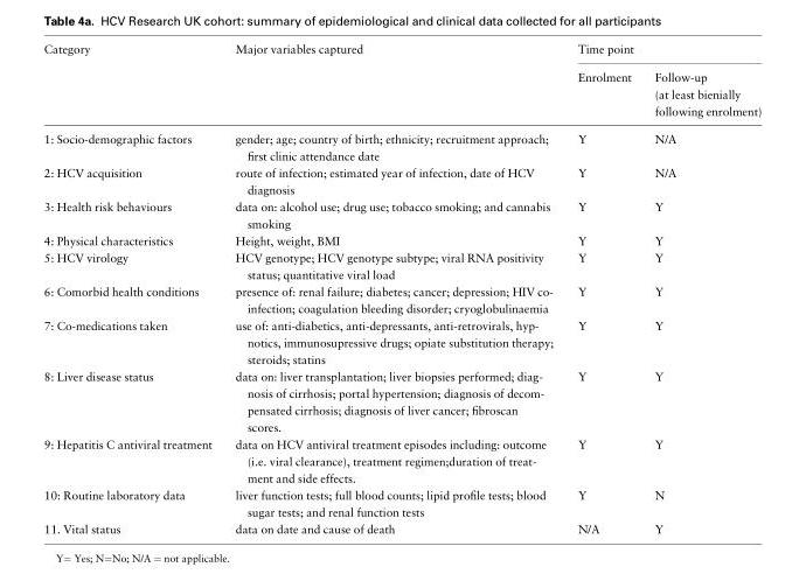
<table><thead><tr><td rowspan="2">Category</td><td rowspan="2">Major variables captured</td><td colspan="2">Time point</td></tr><tr><td>Enrolment</td><td>Follow-up (at least bienially following enrolment)</td></tr></thead><tbody><tr><td>1: Socio-demographic factors</td><td>gender; age; country of birth; ethnicity; recruitment approach; first clinic attendance date</td><td>Y</td><td>N/A</td></tr><tr><td>2: HCV acquisition</td><td>route of infection; estimated year of infection, date of HCV diagnosis</td><td>Y</td><td>N/A</td></tr><tr><td>3: Health risk behaviours</td><td>data on: alcohol use; drug use; tobacco smoking; and cannabis smoking</td><td>Y</td><td>Y</td></tr><tr><td>4: Physical characteristics</td><td>Height, weight, BMI</td><td>Y</td><td>Y</td></tr><tr><td>5: HCV virology</td><td>HCV genotype; HCV genotype subtype; viral RNA positivity status; quantitative viral load</td><td>Y</td><td>Y</td></tr><tr><td>6: Comorbid health conditions</td><td>presence of: renal failure; diabetes; cancer; depression; HIV co- infection; coagulation bleeding disorder; cryoglobulinaemia</td><td>Y</td><td>Y</td></tr><tr><td>7: Co-medications taken</td><td>use of: anti-diabetics, anti-depressants, anti-retrovirals, hyp- notics, immunosupressive drugs; opiate substitution therapy; steroids; statins</td><td>Y</td><td>Y</td></tr><tr><td>8: Liver disease status</td><td>data on: liver transplantation; liver biopsies performed; diag- nosis of cirrhosis; portal hypertension; diagnosis of decom- pensated cirrhosis; diagnosis of liver cancer; fibroscan scores.</td><td>Y</td><td>Y</td></tr><tr><td>9: Hepatitis C antiviral treatment</td><td>data on HCV antiviral treatment episodes including: outcome (i.e. viral clearance), treatment regimen;duration of treat- ment and side effects.</td><td>Y</td><td>Y</td></tr><tr><td>10: Routine laboratory data</td><td>liver function tests; full blood counts; lipid profile tests; blood sugar tests; and renal function tests</td><td>Y</td><td>N</td></tr><tr><td>11. Vital status</td><td>data on date and cause of death</td><td>N/A</td><td>Y</td></tr></tbody></table>